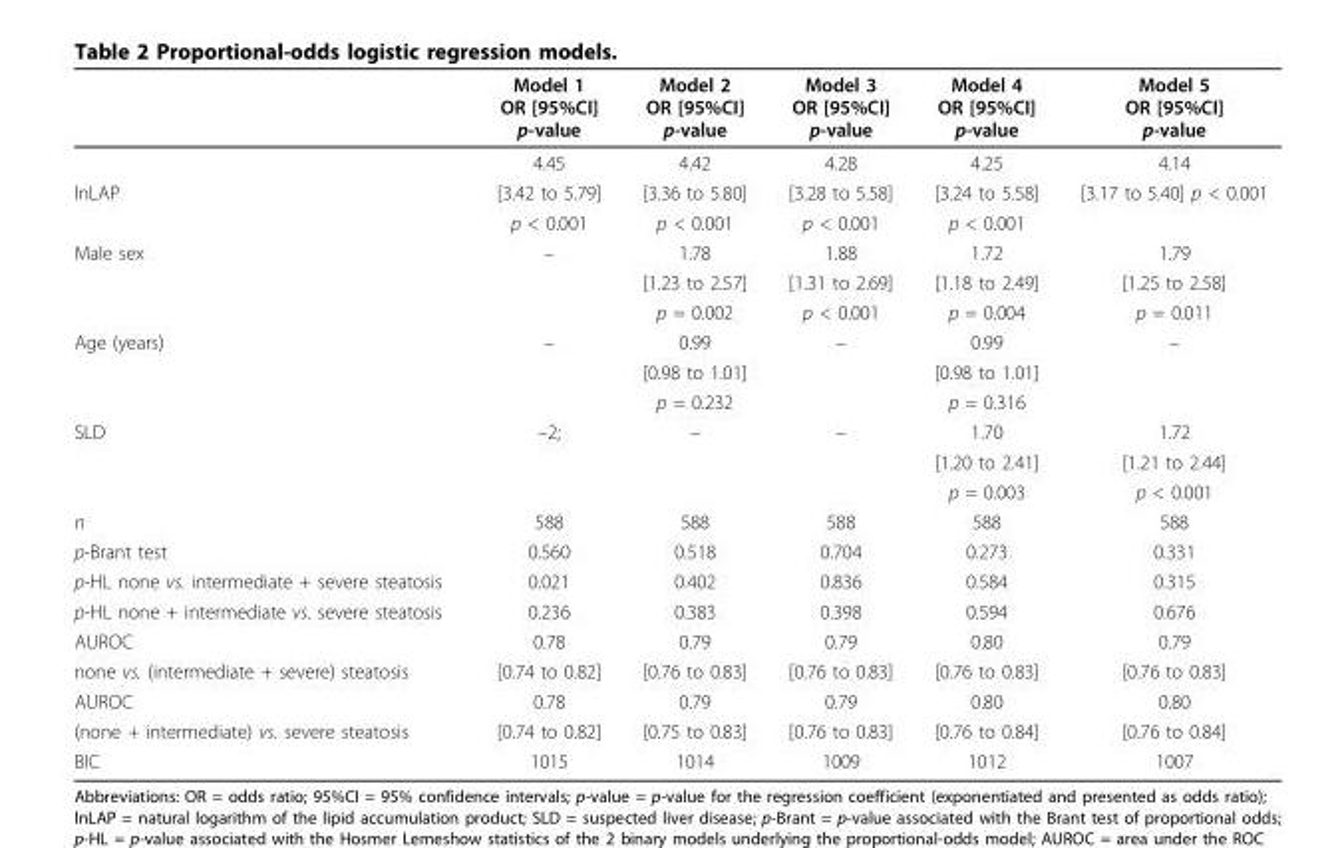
<table><thead><tr><td></td><td>Model 1 OR [95%CI] p-value</td><td>Model 2 OR [95%CI] p-value</td><td>Model 3 OR [95%CI] p-value</td><td>Model 4 OR [95%CI] p-value</td><td>Model 5 OR [95%CI] p-value</td></tr></thead><tbody><tr><td></td><td>4.45</td><td>4.42</td><td>4.28</td><td>4.25</td><td>4.14</td></tr><tr><td rowspan="2">lnLAP</td><td>[3.42 to 5.79]</td><td>[3.36 to 5.80]</td><td>[3.28 to 5.58]</td><td>[3.24 to 5.58]</td><td>[3.17 to 5.40] p &lt; 0.001</td></tr><tr><td>p &lt; 0.001</td><td>p &lt; 0.001</td><td>p &lt; 0.001</td><td>p &lt; 0.001</td><td></td></tr><tr><td rowspan="3">Male sex</td><td>–</td><td>1.78</td><td>1.88</td><td>1.72</td><td>1.79</td></tr><tr><td></td><td>[1.23 to 2.57]</td><td>[1.31 to 2.69]</td><td>[1.18 to 2.49]</td><td>[1.25 to 2.58]</td></tr><tr><td></td><td>p = 0.002</td><td>p &lt; 0.001</td><td>p = 0.004</td><td>p = 0.011</td></tr><tr><td rowspan="3">Age (years)</td><td>–</td><td>0.99</td><td>–</td><td>0.99</td><td>–</td></tr><tr><td></td><td>[0.98 to 1.01]</td><td></td><td>[0.98 to 1.01]</td><td></td></tr><tr><td></td><td>p = 0.232</td><td></td><td>p = 0.316</td><td></td></tr><tr><td rowspan="3">SLD</td><td>–2;</td><td>–</td><td>–</td><td>1.70</td><td>1.72</td></tr><tr><td></td><td></td><td></td><td>[1.20 to 2.41]</td><td>[1.21 to 2.44]</td></tr><tr><td></td><td></td><td></td><td>p = 0.003</td><td>p &lt; 0.001</td></tr><tr><td>n</td><td>588</td><td>588</td><td>588</td><td>588</td><td>588</td></tr><tr><td>p-Brant test</td><td>0.560</td><td>0.518</td><td>0.704</td><td>0.273</td><td>0.331</td></tr><tr><td>p-HL none vs. intermediate + severe steatosis</td><td>0.021</td><td>0.402</td><td>0.836</td><td>0.584</td><td>0.315</td></tr><tr><td>p-HL none + intermediate vs. severe steatosis</td><td>0.236</td><td>0.383</td><td>0.398</td><td>0.594</td><td>0.676</td></tr><tr><td>AUROC</td><td>0.78</td><td>0.79</td><td>0.79</td><td>0.80</td><td>0.79</td></tr><tr><td>none vs. (intermediate + severe) steatosis</td><td>[0.74 to 0.82]</td><td>[0.76 to 0.83]</td><td>[0.76 to 0.83]</td><td>[0.76 to 0.83]</td><td>[0.76 to 0.83]</td></tr><tr><td>AUROC</td><td>0.78</td><td>0.79</td><td>0.79</td><td>0.80</td><td>0.80</td></tr><tr><td>(none + intermediate) vs. severe steatosis</td><td>[0.74 to 0.82]</td><td>[0.75 to 0.83]</td><td>[0.76 to 0.83]</td><td>[0.76 to 0.84]</td><td>[0.76 to 0.84]</td></tr><tr><td>BIC</td><td>1015</td><td>1014</td><td>1009</td><td>1012</td><td>1007</td></tr></tbody></table>